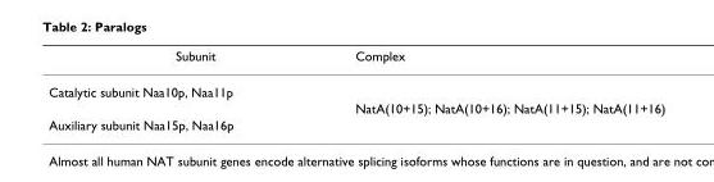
<table><thead><tr><td>Subunit</td><td>Complex</td></tr></thead><tbody><tr><td colspan="2">Catalytic subunit Naa10p, Naa11p</td></tr><tr><td></td><td>NatA(10+15); NatA(10+16); NatA(11+15); NatA(11+16)</td></tr><tr><td>Auxiliary subunit Naa15p, Naa16p</td><td></td></tr></tbody></table>